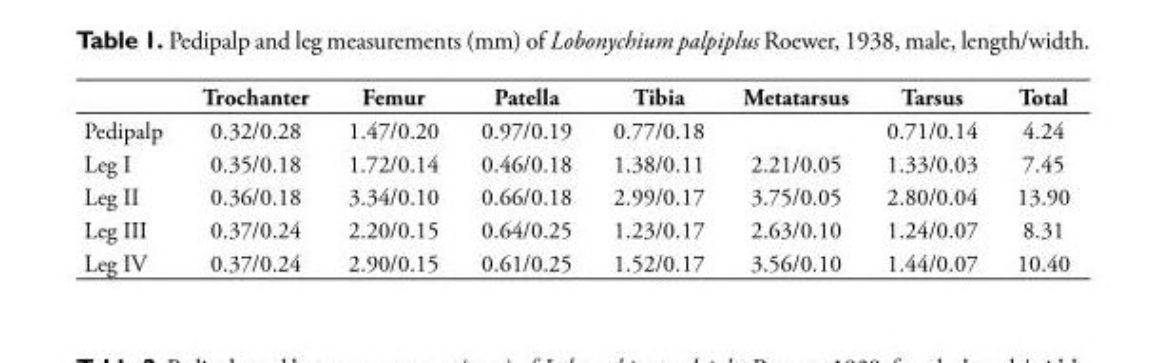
<table><thead><tr><td></td><td>Trochanter</td><td>Femur</td><td>Patella</td><td>Tibia</td><td>Metatarsus</td><td>Tarsus</td><td>Total</td></tr></thead><tbody><tr><td>Pedipalp</td><td>0.32/0.28</td><td>1.47/0.20</td><td>0.97/0.19</td><td>0.77/0.18</td><td></td><td>0.71/0.14</td><td>4.24</td></tr><tr><td>Leg I</td><td>0.35/0.18</td><td>1.72/0.14</td><td>0.46/0.18</td><td>1.38/0.11</td><td>2.21/0.05</td><td>1.33/0.03</td><td>7.45</td></tr><tr><td>Leg II</td><td>0.36/0.18</td><td>3.34/0.10</td><td>0.66/0.18</td><td>2.99/0.17</td><td>3.75/0.05</td><td>2.80/0.04</td><td>13.90</td></tr><tr><td>Leg III</td><td>0.37/0.24</td><td>2.20/0.15</td><td>0.64/0.25</td><td>1.23/0.17</td><td>2.63/0.10</td><td>1.24/0.07</td><td>8.31</td></tr><tr><td>Leg IV</td><td>0.37/0.24</td><td>2.90/0.15</td><td>0.61/0.25</td><td>1.52/0.17</td><td>3.56/0.10</td><td>1.44/0.07</td><td>10.40</td></tr></tbody></table>